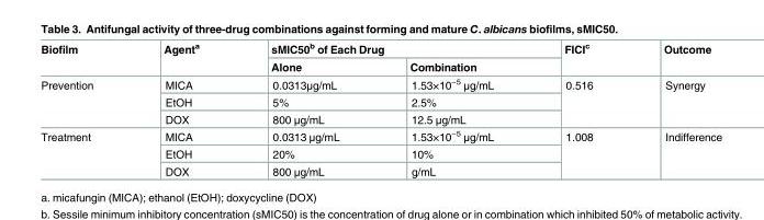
<table><thead><tr><td rowspan="2">Biofilm</td><td rowspan="2">Agent<sup>a</sup></td><td colspan="2">sMIC50<sup>b</sup> of Each Drug</td><td rowspan="2">FICI<sup>c</sup></td><td rowspan="2">Outcome</td></tr><tr><td>Alone</td><td>Combination</td></tr></thead><tbody><tr><td rowspan="3">Prevention</td><td>MICA</td><td>0.0313μg/mL</td><td>1.53×10<sup>−5</sup> μg/mL</td><td rowspan="3">0.516</td><td rowspan="3">Synergy</td></tr><tr><td>EtOH</td><td>5%</td><td>2.5%</td></tr><tr><td>DOX</td><td>800 μg/mL</td><td>12.5 μg/mL</td></tr><tr><td rowspan="3">Treatment</td><td>MICA</td><td>0.0313 μg/mL</td><td>1.53×10<sup>−5</sup> μg/mL</td><td rowspan="3">1.008</td><td rowspan="3">Indifference</td></tr><tr><td>EtOH</td><td>20%</td><td>10%</td></tr><tr><td>DOX</td><td>800 μg/mL</td><td>g/mL</td></tr></tbody></table>